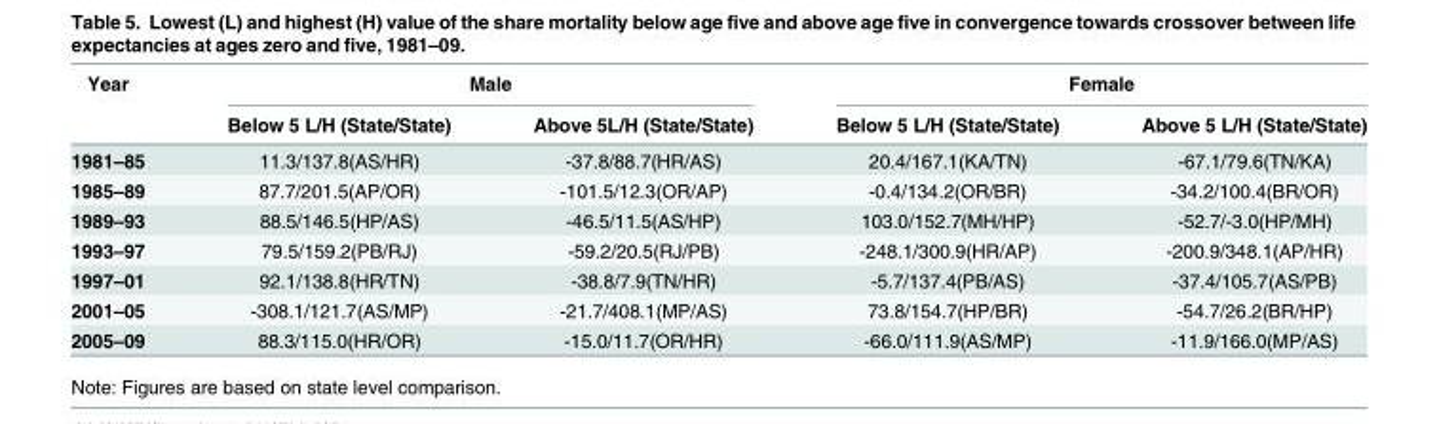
<table><thead><tr><td rowspan="2">Year</td><td colspan="2">Male</td><td colspan="2">Female</td></tr><tr><td>Below 5 L/H (State/State)</td><td>Above 5L/H (State/State)</td><td>Below 5 L/H (State/State)</td><td>Above 5 L/H (State/State)</td></tr></thead><tbody><tr><td>1981–85</td><td>11.3/137.8(AS/HR)</td><td>-37.8/88.7(HR/AS)</td><td>20.4/167.1(KA/TN)</td><td>-67.1/79.6(TN/KA)</td></tr><tr><td>1985–89</td><td>87.7/201.5(AP/OR)</td><td>-101.5/12.3(OR/AP)</td><td>-0.4/134.2(OR/BR)</td><td>-34.2/100.4(BR/OR)</td></tr><tr><td>1989–93</td><td>88.5/146.5(HP/AS)</td><td>-46.5/11.5(AS/HP)</td><td>103.0/152.7(MH/HP)</td><td>-52.7/-3.0(HP/MH)</td></tr><tr><td>1993–97</td><td>79.5/159.2(PB/RJ)</td><td>-59.2/20.5(RJ/PB)</td><td>-248.1/300.9(HR/AP)</td><td>-200.9/348.1(AP/HR)</td></tr><tr><td>1997–01</td><td>92.1/138.8(HR/TN)</td><td>-38.8/7.9(TN/HR)</td><td>-5.7/137.4(PB/AS)</td><td>-37.4/105.7(AS/PB)</td></tr><tr><td>2001–05</td><td>-308.1/121.7(AS/MP)</td><td>-21.7/408.1(MP/AS)</td><td>73.8/154.7(HP/BR)</td><td>-54.7/26.2(BR/HP)</td></tr><tr><td>2005–09</td><td>88.3/115.0(HR/OR)</td><td>-15.0/11.7(OR/HR)</td><td>-66.0/111.9(AS/MP)</td><td>-11.9/166.0(MP/AS)</td></tr></tbody></table>